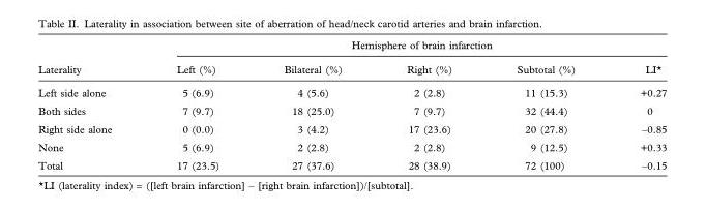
<table><thead><tr><td rowspan="2">Laterality</td><td colspan="5">Hemisphere of brain infarction</td></tr><tr><td>Left (%)</td><td>Bilateral (%)</td><td>Right (%)</td><td>Subtotal (%)</td><td>LI*</td></tr></thead><tbody><tr><td>Left side alone</td><td>5 (6.9)</td><td>4 (5.6)</td><td>2 (2.8)</td><td>11 (15.3)</td><td>+0.27</td></tr><tr><td>Both sides</td><td>7 (9.7)</td><td>18 (25.0)</td><td>7 (9.7)</td><td>32 (44.4)</td><td>0</td></tr><tr><td>Right side alone</td><td>0 (0.0)</td><td>3 (4.2)</td><td>17 (23.6)</td><td>20 (27.8)</td><td>–0.85</td></tr><tr><td>None</td><td>5 (6.9)</td><td>2 (2.8)</td><td>2 (2.8)</td><td>9 (12.5)</td><td>+0.33</td></tr><tr><td>Total</td><td>17 (23.5)</td><td>27 (37.6)</td><td>28 (38.9)</td><td>72 (100)</td><td>–0.15</td></tr></tbody></table>